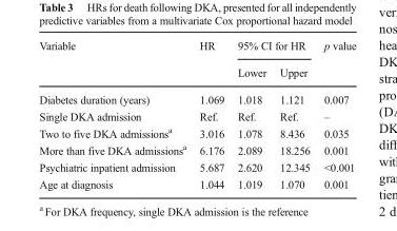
<table><thead><tr><td rowspan="2">Variable</td><td rowspan="2">HR</td><td colspan="2">95% CI for HR</td><td rowspan="2">p value</td></tr><tr><td>Lower</td><td>Upper</td></tr></thead><tbody><tr><td>Diabetes duration (years)</td><td>1.069</td><td>1.018</td><td>1.121</td><td>0.007</td></tr><tr><td>Single DKA admission</td><td>Ref.</td><td>Ref.</td><td>Ref.</td><td>–</td></tr><tr><td>Two to five DKA admissions<sup>a</sup></td><td>3.016</td><td>1.078</td><td>8.436</td><td>0.035</td></tr><tr><td>More than five DKA admissions<sup>a</sup></td><td>6.176</td><td>2.089</td><td>18.256</td><td>0.001</td></tr><tr><td>Psychiatric inpatient admission</td><td>5.687</td><td>2.620</td><td>12.345</td><td>&lt;0.001</td></tr><tr><td>Age at diagnosis</td><td>1.044</td><td>1.019</td><td>1.070</td><td>0.001</td></tr></tbody></table>